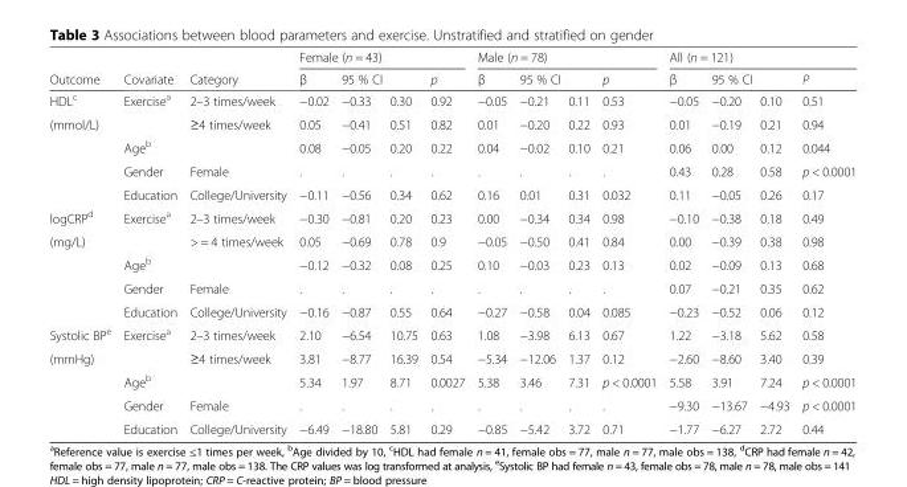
<table><thead><tr><td rowspan="3">Outcome HDL<sup>c</sup></td><td rowspan="3">Covariate Exercise<sup>a</sup></td><td rowspan="3">Category 2–3 times/week</td><td colspan="4">Female (n = 43)</td><td colspan="4">Male (n = 78)</td><td colspan="4">All (n = 121)</td></tr><tr><td rowspan="2">β −0.02</td><td colspan="2">95 % CI</td><td rowspan="2">p 0.92</td><td rowspan="2">β −0.05</td><td colspan="2">95 % CI</td><td rowspan="2">p 0.53</td><td rowspan="2">β −0.05</td><td colspan="2">95 % CI</td><td rowspan="2">P 0.51</td></tr><tr><td>−0.33</td><td>0.30</td><td>−0.21</td><td>0.11</td><td>−0.20</td><td>0.10</td></tr></thead><tbody><tr><td rowspan="4">(mmol/L)</td><td></td><td>≥4 times/week</td><td>0.05</td><td>−0.41</td><td>0.51</td><td>0.82</td><td>0.01</td><td>−0.20</td><td>0.22</td><td>0.93</td><td>0.01</td><td>−0.19</td><td>0.21</td><td>0.94</td></tr><tr><td>Age<sup>b</sup></td><td></td><td>0.08</td><td>−0.05</td><td>0.20</td><td>0.22</td><td>0.04</td><td>−0.02</td><td>0.10</td><td>0.21</td><td>0.06</td><td>0.00</td><td>0.12</td><td>0.044</td></tr><tr><td>Gender</td><td>Female</td><td>.</td><td>.</td><td>.</td><td>.</td><td>.</td><td>.</td><td>.</td><td>.</td><td>0.43</td><td>0.28</td><td>0.58</td><td>p &lt; 0.0001</td></tr><tr><td>Education</td><td>College/University</td><td>−0.11</td><td>−0.56</td><td>0.34</td><td>0.62</td><td>0.16</td><td>0.01</td><td>0.31</td><td>0.032</td><td>0.11</td><td>−0.05</td><td>0.26</td><td>0.17</td></tr><tr><td>logCRP<sup>d</sup></td><td>Exercise<sup>a</sup></td><td>2–3 times/week</td><td>−0.30</td><td>−0.81</td><td>0.20</td><td>0.23</td><td>0.00</td><td>−0.34</td><td>0.34</td><td>0.98</td><td>−0.10</td><td>−0.38</td><td>0.18</td><td>0.49</td></tr><tr><td rowspan="4">(mg/L)</td><td></td><td>&gt; = 4 times/week</td><td>0.05</td><td>−0.69</td><td>0.78</td><td>0.9</td><td>−0.05</td><td>−0.50</td><td>0.41</td><td>0.84</td><td>0.00</td><td>−0.39</td><td>0.38</td><td>0.98</td></tr><tr><td>Age<sup>b</sup></td><td></td><td>−0.12</td><td>−0.32</td><td>0.08</td><td>0.25</td><td>0.10</td><td>−0.03</td><td>0.23</td><td>0.13</td><td>0.02</td><td>−0.09</td><td>0.13</td><td>0.68</td></tr><tr><td>Gender</td><td>Female</td><td>.</td><td>.</td><td>.</td><td>.</td><td>.</td><td>.</td><td>.</td><td>.</td><td>0.07</td><td>−0.21</td><td>0.35</td><td>0.62</td></tr><tr><td>Education</td><td>College/University</td><td>−0.16</td><td>−0.87</td><td>0.55</td><td>0.64</td><td>−0.27</td><td>−0.58</td><td>0.04</td><td>0.085</td><td>−0.23</td><td>−0.52</td><td>0.06</td><td>0.12</td></tr><tr><td>Systolic BP<sup>e</sup></td><td>Exercise<sup>a</sup></td><td>2–3 times/week</td><td>2.10</td><td>−6.54</td><td>10.75</td><td>0.63</td><td>1.08</td><td>−3.98</td><td>6.13</td><td>0.67</td><td>1.22</td><td>−3.18</td><td>5.62</td><td>0.58</td></tr><tr><td rowspan="4">(mmHg)</td><td></td><td>≥4 times/week</td><td>3.81</td><td>−8.77</td><td>16.39</td><td>0.54</td><td>−5.34</td><td>−12.06</td><td>1.37</td><td>0.12</td><td>−2.60</td><td>−8.60</td><td>3.40</td><td>0.39</td></tr><tr><td>Age<sup>b</sup></td><td></td><td>5.34</td><td>1.97</td><td>8.71</td><td>0.0027</td><td>5.38</td><td>3.46</td><td>7.31</td><td>p &lt; 0.0001</td><td>5.58</td><td>3.91</td><td>7.24</td><td>p &lt; 0.0001</td></tr><tr><td>Gender</td><td>Female</td><td>.</td><td>.</td><td>.</td><td>.</td><td>.</td><td>.</td><td>.</td><td>.</td><td>−9.30</td><td>−13.67</td><td>−4.93</td><td>p &lt; 0.0001</td></tr><tr><td>Education</td><td>College/University</td><td>−6.49</td><td>−18.80</td><td>5.81</td><td>0.29</td><td>−0.85</td><td>−5.42</td><td>3.72</td><td>0.71</td><td>−1.77</td><td>−6.27</td><td>2.72</td><td>0.44</td></tr></tbody></table>